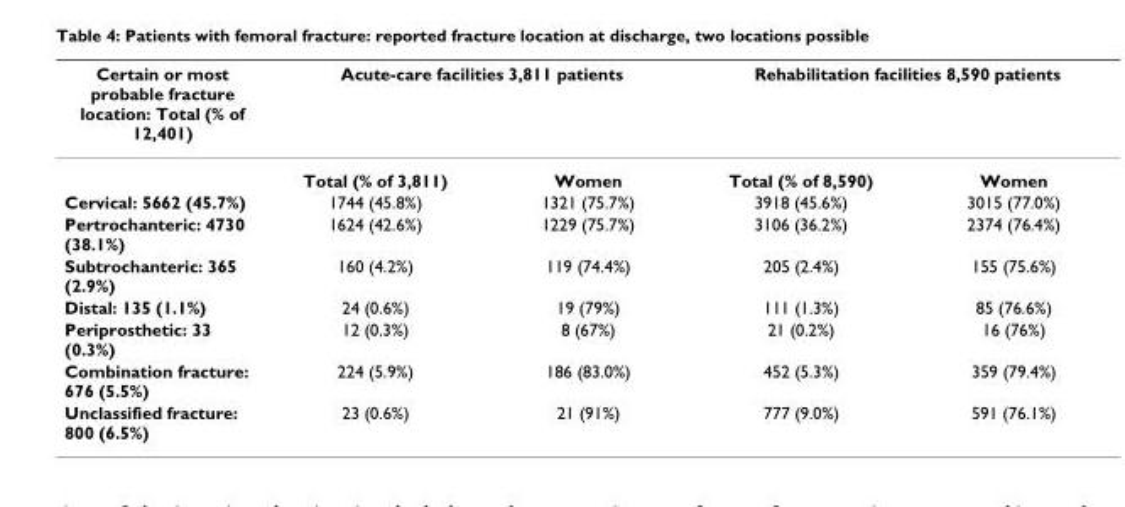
<table><thead><tr><td rowspan="2">Certain or most probable fracture location: Total (% of 12,401)</td><td colspan="2">Acute-care facilities 3,811 patients</td><td colspan="2">Rehabilitation facilities 8,590 patients</td></tr><tr><td>Total (% of 3,811)</td><td>Women</td><td>Total (% of 8,590)</td><td>Women</td></tr></thead><tbody><tr><td>Cervical: 5662 (45.7%)</td><td>1744 (45.8%)</td><td>1321 (75.7%)</td><td>3918 (45.6%)</td><td>3015 (77.0%)</td></tr><tr><td>Pertrochanteric: 4730 (38.1%)</td><td>1624 (42.6%)</td><td>1229 (75.7%)</td><td>3106 (36.2%)</td><td>2374 (76.4%)</td></tr><tr><td>Subtrochanteric: 365 (2.9%)</td><td>160 (4.2%)</td><td>119 (74.4%)</td><td>205 (2.4%)</td><td>155 (75.6%)</td></tr><tr><td>Distal: 135 (1.1%)</td><td>24 (0.6%)</td><td>19 (79%)</td><td>111 (1.3%)</td><td>85 (76.6%)</td></tr><tr><td>Periprosthetic: 33 (0.3%)</td><td>12 (0.3%)</td><td>8 (67%)</td><td>21 (0.2%)</td><td>16 (76%)</td></tr><tr><td>Combination fracture: 676 (5.5%)</td><td>224 (5.9%)</td><td>186 (83.0%)</td><td>452 (5.3%)</td><td>359 (79.4%)</td></tr><tr><td>Unclassified fracture: 800 (6.5%)</td><td>23 (0.6%)</td><td>21 (91%)</td><td>777 (9.0%)</td><td>591 (76.1%)</td></tr></tbody></table>